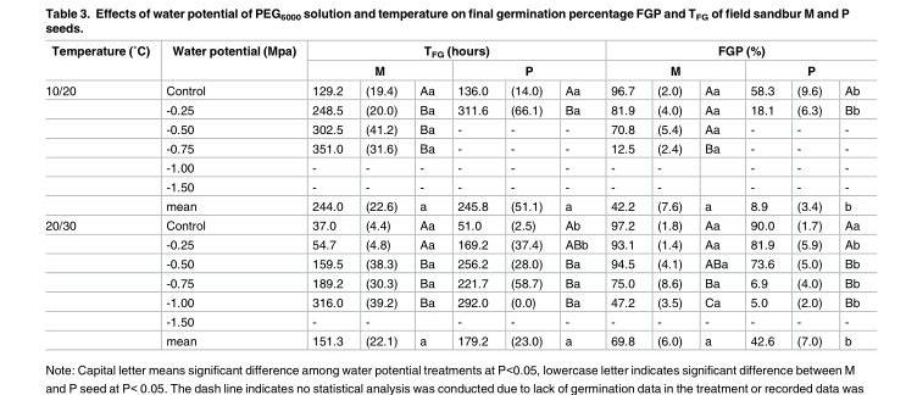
<table><thead><tr><td rowspan="3">Temperature (˚C) 10/20</td><td rowspan="3">Water potential (Mpa) Control</td><td colspan="6">T<sub>FG</sub> (hours)</td><td colspan="6">FGP (%)</td></tr><tr><td colspan="3">M</td><td colspan="3">P</td><td colspan="3">M</td><td colspan="3">P</td></tr><tr><td>129.2</td><td>(19.4)</td><td>Aa</td><td>136.0</td><td>(14.0)</td><td>Aa</td><td>96.7</td><td>(2.0)</td><td>Aa</td><td>58.3</td><td>(9.6)</td><td>Ab</td></tr></thead><tbody><tr><td></td><td>-0.25</td><td>248.5</td><td>(20.0)</td><td>Ba</td><td>311.6</td><td>(66.1)</td><td>Ba</td><td>81.9</td><td>(4.0)</td><td>Aa</td><td>18.1</td><td>(6.3)</td><td>Bb</td></tr><tr><td></td><td>-0.50</td><td>302.5</td><td>(41.2)</td><td>Ba</td><td>-</td><td>-</td><td>-</td><td>70.8</td><td>(5.4)</td><td>Aa</td><td>-</td><td>-</td><td>-</td></tr><tr><td></td><td>-0.75</td><td>351.0</td><td>(31.6)</td><td>Ba</td><td>-</td><td>-</td><td>-</td><td>12.5</td><td>(2.4)</td><td>Ba</td><td>-</td><td>-</td><td>-</td></tr><tr><td></td><td>-1.00</td><td>-</td><td>-</td><td>-</td><td>-</td><td>-</td><td>-</td><td>-</td><td>-</td><td></td><td>-</td><td>-</td><td>-</td></tr><tr><td></td><td>-1.50</td><td>-</td><td>-</td><td>-</td><td>-</td><td>-</td><td>-</td><td>-</td><td>-</td><td></td><td>-</td><td>-</td><td>-</td></tr><tr><td></td><td>mean</td><td>244.0</td><td>(22.6)</td><td>a</td><td>245.8</td><td>(51.1)</td><td>a</td><td>42.2</td><td>(7.6)</td><td>a</td><td>8.9</td><td>(3.4)</td><td>b</td></tr><tr><td rowspan="7">20/30</td><td>Control</td><td>37.0</td><td>(4.4)</td><td>Aa</td><td>51.0</td><td>(2.5)</td><td>Ab</td><td>97.2</td><td>(1.8)</td><td>Aa</td><td>90.0</td><td>(1.7)</td><td>Aa</td></tr><tr><td>-0.25</td><td>54.7</td><td>(4.8)</td><td>Aa</td><td>169.2</td><td>(37.4)</td><td>ABb</td><td>93.1</td><td>(1.4)</td><td>Aa</td><td>81.9</td><td>(5.9)</td><td>Ab</td></tr><tr><td>-0.50</td><td>159.5</td><td>(38.3)</td><td>Ba</td><td>256.2</td><td>(28.0)</td><td>Ba</td><td>94.5</td><td>(4.1)</td><td>ABa</td><td>73.6</td><td>(5.0)</td><td>Bb</td></tr><tr><td>-0.75</td><td>189.2</td><td>(30.3)</td><td>Ba</td><td>221.7</td><td>(58.7)</td><td>Ba</td><td>75.0</td><td>(8.6)</td><td>Ba</td><td>6.9</td><td>(4.0)</td><td>Bb</td></tr><tr><td>-1.00</td><td>316.0</td><td>(39.2)</td><td>Ba</td><td>292.0</td><td>(0.0)</td><td>Ba</td><td>47.2</td><td>(3.5)</td><td>Ca</td><td>5.0</td><td>(2.0)</td><td>Bb</td></tr><tr><td>-1.50</td><td>-</td><td>-</td><td></td><td>-</td><td>-</td><td>-</td><td>-</td><td>-</td><td>-</td><td>-</td><td>-</td><td>-</td></tr><tr><td>mean</td><td>151.3</td><td>(22.1)</td><td>a</td><td>179.2</td><td>(23.0)</td><td>a</td><td>69.8</td><td>(6.0)</td><td>a</td><td>42.6</td><td>(7.0)</td><td>b</td></tr></tbody></table>